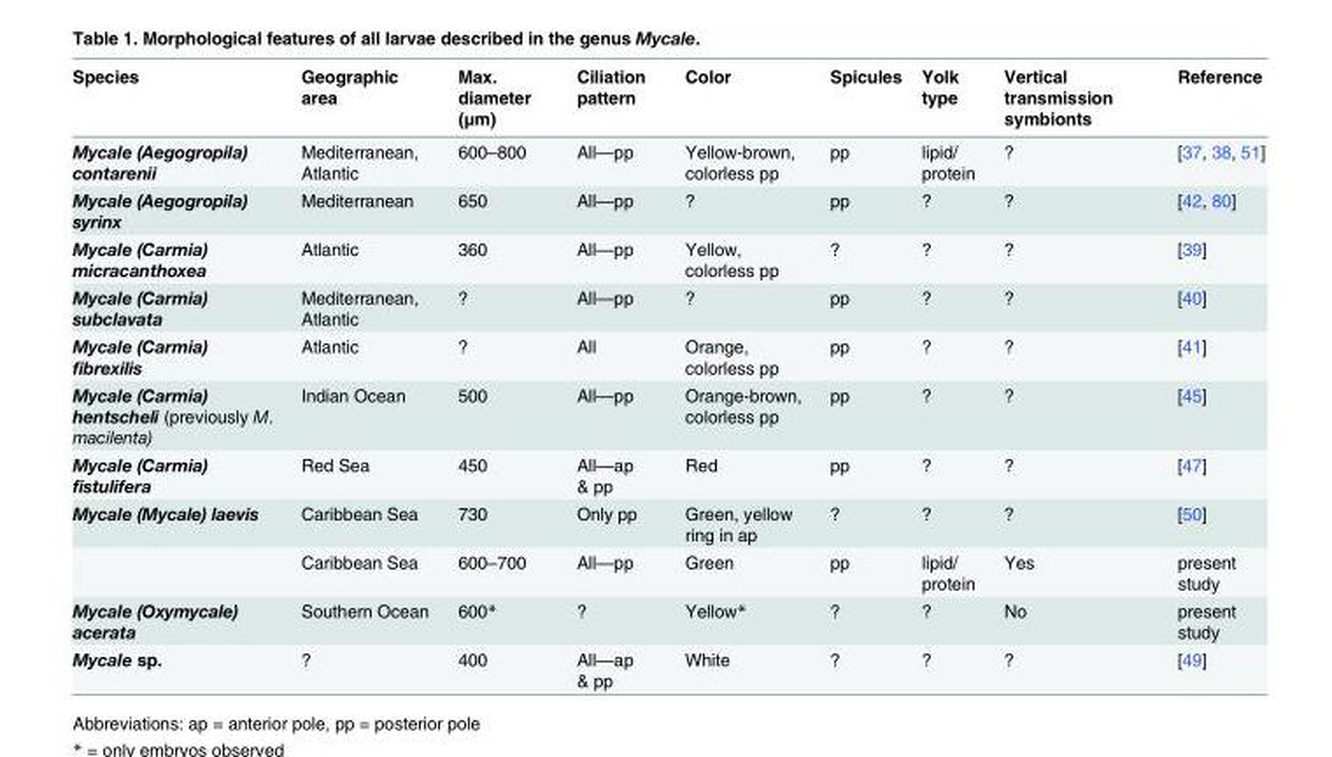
<table><thead><tr><td>Species</td><td>Geographic area</td><td>Max. diameter (μm)</td><td>Ciliation pattern</td><td>Color</td><td>Spicules</td><td>Yolk type</td><td>Vertical transmission symbionts</td><td>Reference</td></tr></thead><tbody><tr><td>Mycale (Aegogropila) contarenii</td><td>Mediterranean, Atlantic</td><td>600–800</td><td>All—pp</td><td>Yellow-brown, colorless pp</td><td>pp</td><td>lipid/ protein</td><td>?</td><td>[37, 38, 51]</td></tr><tr><td>Mycale (Aegogropila) syrinx</td><td>Mediterranean</td><td>650</td><td>All—pp</td><td>?</td><td>pp</td><td>?</td><td>?</td><td>[42, 80]</td></tr><tr><td>Mycale (Carmia) micracanthoxea</td><td>Atlantic</td><td>360</td><td>All—pp</td><td>Yellow, colorless pp</td><td>?</td><td>?</td><td>?</td><td>[39]</td></tr><tr><td>Mycale (Carmia) subclavata</td><td>Mediterranean, Atlantic</td><td>?</td><td>All—pp</td><td>?</td><td>pp</td><td>?</td><td>?</td><td>[40]</td></tr><tr><td>Mycale (Carmia) fibrexilis</td><td>Atlantic</td><td>?</td><td>All</td><td>Orange, colorless pp</td><td>pp</td><td>?</td><td>?</td><td>[41]</td></tr><tr><td>Mycale (Carmia) hentscheli (previously M. macilenta)</td><td>Indian Ocean</td><td>500</td><td>All—pp</td><td>Orange-brown, colorless pp</td><td>pp</td><td>?</td><td>?</td><td>[45]</td></tr><tr><td>Mycale (Carmia) fistulifera</td><td>Red Sea</td><td>450</td><td>All—ap &amp; pp</td><td>Red</td><td>pp</td><td>?</td><td>?</td><td>[47]</td></tr><tr><td rowspan="2">Mycale (Mycale) laevis</td><td>Caribbean Sea</td><td>730</td><td>Only pp</td><td>Green, yellow ring in ap</td><td>?</td><td>?</td><td>?</td><td>[50]</td></tr><tr><td>Caribbean Sea</td><td>600–700</td><td>All—pp</td><td>Green</td><td>pp</td><td>lipid/ protein</td><td>Yes</td><td>present study</td></tr><tr><td>Mycale (Oxymycale) acerata</td><td>Southern Ocean</td><td>600*</td><td>?</td><td>Yellow*</td><td>?</td><td>?</td><td>No</td><td>present study</td></tr><tr><td>Mycale sp.</td><td>?</td><td>400</td><td>All—ap &amp; pp</td><td>White</td><td>?</td><td>?</td><td>?</td><td>[49]</td></tr></tbody></table>